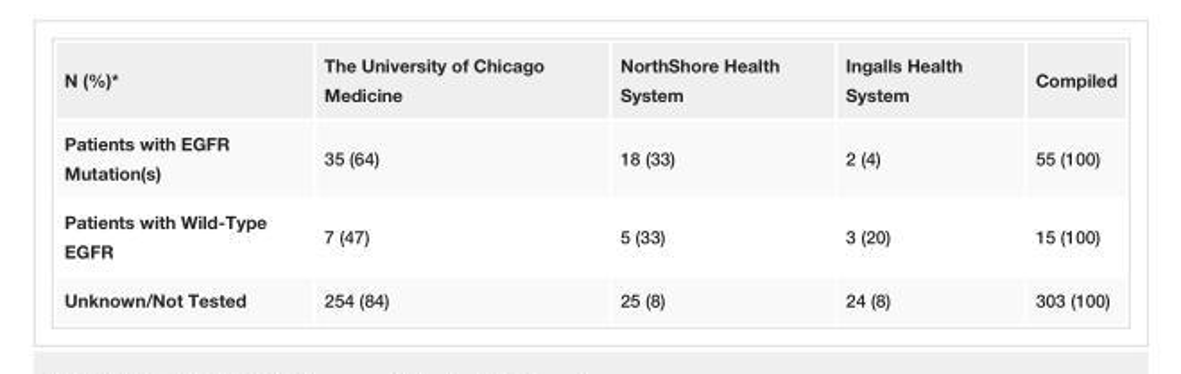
<table><tbody><tr><td>N (%)*</td><td>The University of Chicago Medicine</td><td>NorthShore Health System</td><td>Ingalls Health System</td><td>Compiled</td></tr><tr><td>Patients with EGFR Mutation(s)</td><td>35 (64)</td><td>18 (33)</td><td>2 (4)</td><td>55 (100)</td></tr><tr><td>Patients with Wild-Type EGFR</td><td>7 (47)</td><td>5 (33)</td><td>3 (20)</td><td>15 (100)</td></tr><tr><td>Unknown/Not Tested</td><td>254 (84)</td><td>25 (8)</td><td>24 (8)</td><td>303 (100)</td></tr></tbody></table>